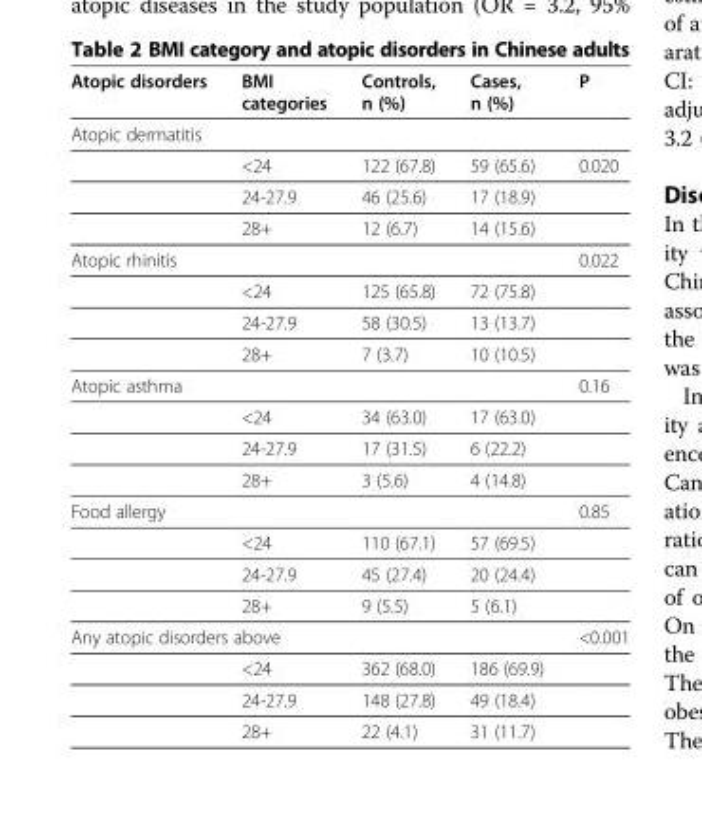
<table><thead><tr><td>Atopic disorders</td><td>BMI categories</td><td>Controls, n (%)</td><td>Cases, n (%)</td><td>P</td></tr></thead><tbody><tr><td colspan="5">Atopic dermatitis</td></tr><tr><td></td><td>&lt;24</td><td>122 (67.8)</td><td>59 (65.6)</td><td>0.020</td></tr><tr><td></td><td>24-27.9</td><td>46 (25.6)</td><td>17 (18.9)</td><td></td></tr><tr><td></td><td>28+</td><td>12 (6.7)</td><td>14 (15.6)</td><td></td></tr><tr><td colspan="2">Atopic rhinitis</td><td></td><td></td><td>0.022</td></tr><tr><td></td><td>&lt;24</td><td>125 (65.8)</td><td>72 (75.8)</td><td></td></tr><tr><td></td><td>24-27.9</td><td>58 (30.5)</td><td>13 (13.7)</td><td></td></tr><tr><td></td><td>28+</td><td>7 (3.7)</td><td>10 (10.5)</td><td></td></tr><tr><td colspan="2">Atopic asthma</td><td></td><td></td><td>0.16</td></tr><tr><td></td><td>&lt;24</td><td>34 (63.0)</td><td>17 (63.0)</td><td></td></tr><tr><td></td><td>24-27.9</td><td>17 (31.5)</td><td>6 (22.2)</td><td></td></tr><tr><td></td><td>28+</td><td>3 (5.6)</td><td>4 (14.8)</td><td></td></tr><tr><td colspan="2">Food allergy</td><td></td><td></td><td>0.85</td></tr><tr><td></td><td>&lt;24</td><td>110 (67.1)</td><td>57 (69.5)</td><td></td></tr><tr><td></td><td>24-27.9</td><td>45 (27.4)</td><td>20 (24.4)</td><td></td></tr><tr><td></td><td>28+</td><td>9 (5.5)</td><td>5 (6.1)</td><td></td></tr><tr><td colspan="2">Any atopic disorders above</td><td></td><td></td><td>&lt;0.001</td></tr><tr><td></td><td>&lt;24</td><td>362 (68.0)</td><td>186 (69.9)</td><td></td></tr><tr><td></td><td>24-27.9</td><td>148 (27.8)</td><td>49 (18.4)</td><td></td></tr><tr><td></td><td>28+</td><td>22 (4.1)</td><td>31 (11.7)</td><td></td></tr></tbody></table>